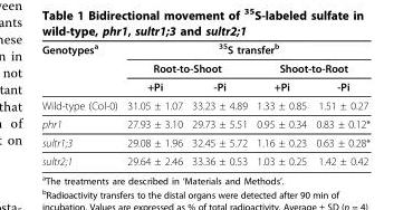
<table><thead><tr><td rowspan="3">Genotypes<sup>a</sup></td><td colspan="4"><sup>35</sup>S transfer<sup>b</sup></td></tr><tr><td colspan="2">Root-to-Shoot</td><td colspan="2">Shoot-to-Root</td></tr><tr><td>+Pi</td><td>-Pi</td><td>+Pi</td><td>-Pi</td></tr></thead><tbody><tr><td>Wild-type (Col-0)</td><td>31.05 ± 1.07</td><td>33.23 ± 4.89</td><td>1.33 ± 0.85</td><td>1.51 ± 0.27</td></tr><tr><td>phr1</td><td>27.93 ± 3.10</td><td>29.73 ± 5.51</td><td>0.95 ± 0.34</td><td>0.83 ± 0.12*</td></tr><tr><td>sultr1;3</td><td>29.08 ± 1.96</td><td>32.45 ± 5.72</td><td>1.16 ± 0.23</td><td>0.63 ± 0.28*</td></tr><tr><td>sultr2;1</td><td>29.64 ± 2.46</td><td>33.36 ± 0.53</td><td>1.03 ± 0.25</td><td>1.42 ± 0.42</td></tr></tbody></table>